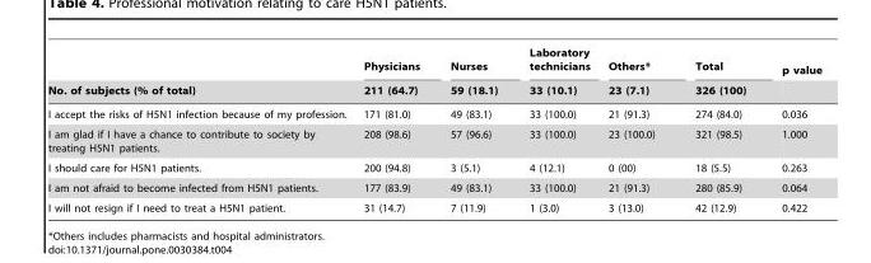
<table><thead><tr><td rowspan="2">No. of subjects (% of total)</td><td rowspan="2">Physicians 211 (64.7)</td><td rowspan="2">Nurses 59 (18.1)</td><td rowspan="2">Laboratory technicians 33 (10.1)</td><td rowspan="2">Others* 23 (7.1)</td><td rowspan="2">Total 326 (100)</td><td rowspan="2">p value</td></tr><tr></tr></thead><tbody><tr><td>I accept the risks of H5N1 infection because of my profession.</td><td>171 (81.0)</td><td>49 (83.1)</td><td>33 (100.0)</td><td>21 (91.3)</td><td>274 (84.0)</td><td>0.036</td></tr><tr><td>I am glad if I have a chance to contribute to society by treating H5N1 patients.</td><td>208 (98.6)</td><td>57 (96.6)</td><td>33 (100.0)</td><td>23 (100.0)</td><td>321 (98.5)</td><td>1.000</td></tr><tr><td>I should care for H5N1 patients.</td><td>200 (94.8)</td><td>3 (5.1)</td><td>4 (12.1)</td><td>0 (00)</td><td>18 (5.5)</td><td>0.263</td></tr><tr><td>I am not afraid to become infected from H5N1 patients.</td><td>177 (83.9)</td><td>49 (83.1)</td><td>33 (100.0)</td><td>21 (91.3)</td><td>280 (85.9)</td><td>0.064</td></tr><tr><td>I will not resign if I need to treat a H5N1 patient.</td><td>31 (14.7)</td><td>7 (11.9)</td><td>1 (3.0)</td><td>3 (13.0)</td><td>42 (12.9)</td><td>0.422</td></tr></tbody></table>